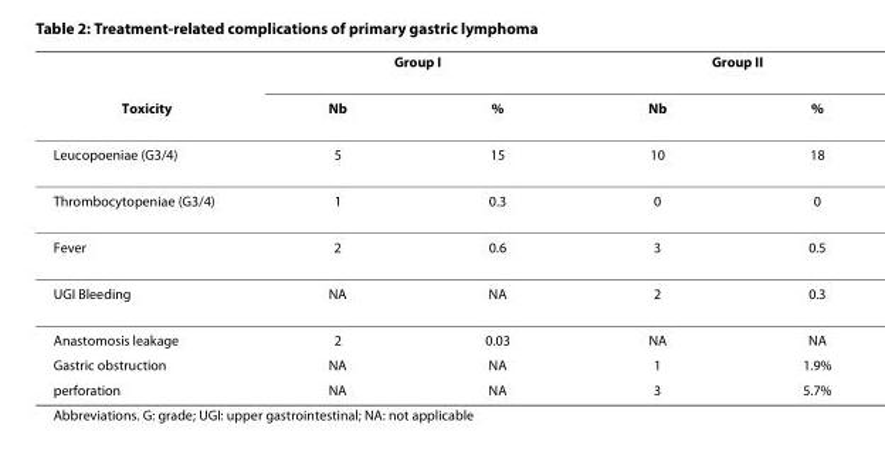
<table><thead><tr><td rowspan="2">Toxicity</td><td colspan="2">Group I</td><td colspan="2">Group II</td></tr><tr><td>Nb</td><td>%</td><td>Nb</td><td>%</td></tr></thead><tbody><tr><td>Leucopoeniae (G3/4)</td><td>5</td><td>15</td><td>10</td><td>18</td></tr><tr><td>Thrombocytopeniae (G3/4)</td><td>1</td><td>0.3</td><td>0</td><td>0</td></tr><tr><td>Fever</td><td>2</td><td>0.6</td><td>3</td><td>0.5</td></tr><tr><td>UGI Bleeding</td><td>NA</td><td>NA</td><td>2</td><td>0.3</td></tr><tr><td>Anastomosis leakage</td><td>2</td><td>0.03</td><td>NA</td><td>NA</td></tr><tr><td>Gastric obstruction</td><td>NA</td><td>NA</td><td>1</td><td>1.9%</td></tr><tr><td>perforation</td><td>NA</td><td>NA</td><td>3</td><td>5.7%</td></tr></tbody></table>